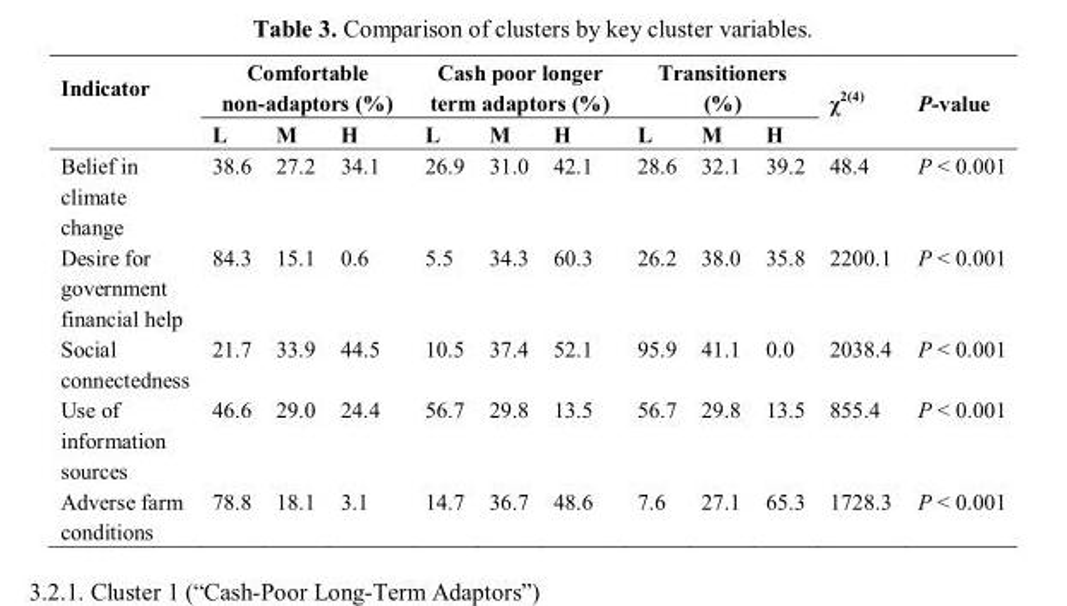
<table><thead><tr><td rowspan="2">Indicator</td><td colspan="3">Comfortable non-adaptors (%)</td><td colspan="3">Cash poor longer term adaptors (%)</td><td colspan="3">Transitioners (%)</td><td rowspan="2">χ<sup>2(4)</sup></td><td rowspan="2">P-value</td></tr><tr><td>L</td><td>M</td><td>H</td><td>L</td><td>M</td><td>H</td><td>L</td><td>M</td><td>H</td></tr></thead><tbody><tr><td>Belief in climate change</td><td>38.6</td><td>27.2</td><td>34.1</td><td>26.9</td><td>31.0</td><td>42.1</td><td>28.6</td><td>32.1</td><td>39.2</td><td>48.4</td><td>P &lt; 0.001</td></tr><tr><td>Desire for government financial help</td><td>84.3</td><td>15.1</td><td>0.6</td><td>5.5</td><td>34.3</td><td>60.3</td><td>26.2</td><td>38.0</td><td>35.8</td><td>2200.1</td><td>P &lt; 0.001</td></tr><tr><td>Social connectedness</td><td>21.7</td><td>33.9</td><td>44.5</td><td>10.5</td><td>37.4</td><td>52.1</td><td>95.9</td><td>41.1</td><td>0.0</td><td>2038.4</td><td>P &lt; 0.001</td></tr><tr><td>Use of information sources</td><td>46.6</td><td>29.0</td><td>24.4</td><td>56.7</td><td>29.8</td><td>13.5</td><td>56.7</td><td>29.8</td><td>13.5</td><td>855.4</td><td>P &lt; 0.001</td></tr><tr><td>Adverse farm conditions</td><td>78.8</td><td>18.1</td><td>3.1</td><td>14.7</td><td>36.7</td><td>48.6</td><td>7.6</td><td>27.1</td><td>65.3</td><td>1728.3</td><td>P &lt; 0.001</td></tr></tbody></table>